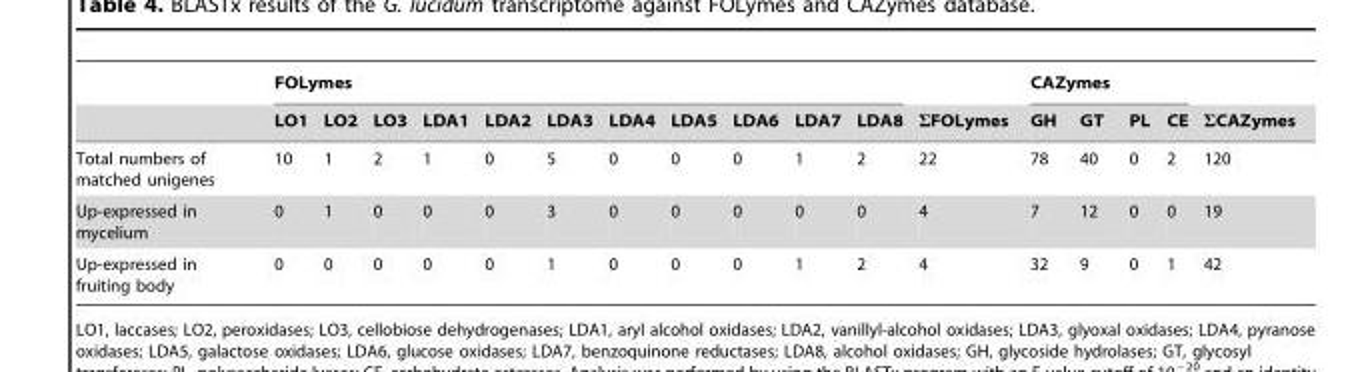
<table><thead><tr><td rowspan="2"></td><td colspan="11">FOLymes</td><td rowspan="2">ΣFOLymes</td><td colspan="4">CAZymes</td><td rowspan="2">ΣCAZymes</td></tr><tr><td>LO1</td><td>LO2</td><td>LO3</td><td>LDA1</td><td>LDA2</td><td>LDA3</td><td>LDA4</td><td>LDA5</td><td>LDA6</td><td>LDA7</td><td>LDA8</td><td>GH</td><td>GT</td><td>PL</td><td>CE</td></tr></thead><tbody><tr><td>Total numbers of matched unigenes</td><td>10</td><td>1</td><td>2</td><td>1</td><td>0</td><td>5</td><td>0</td><td>0</td><td>0</td><td>1</td><td>2</td><td>22</td><td>78</td><td>40</td><td>0</td><td>2</td><td>120</td></tr><tr><td>Up-expressed in mycelium</td><td>0</td><td>1</td><td>0</td><td>0</td><td>0</td><td>3</td><td>0</td><td>0</td><td>0</td><td>0</td><td>0</td><td>4</td><td>7</td><td>12</td><td>0</td><td>0</td><td>19</td></tr><tr><td>Up-expressed in fruiting body</td><td>0</td><td>0</td><td>0</td><td>0</td><td>0</td><td>1</td><td>0</td><td>0</td><td>0</td><td>1</td><td>2</td><td>4</td><td>32</td><td>9</td><td>0</td><td>1</td><td>42</td></tr></tbody></table>